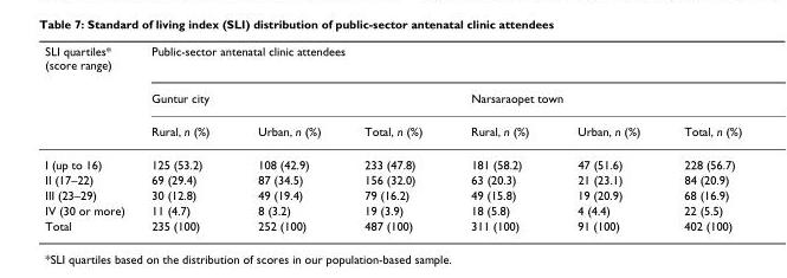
<table><thead><tr><td rowspan="3">SLI quartiles* (score range)</td><td colspan="6">Public-sector antenatal clinic attendees</td></tr><tr><td colspan="3">Guntur city</td><td colspan="3">Narsaraopet town</td></tr><tr><td>Rural, n (%)</td><td>Urban, n (%)</td><td>Total, n (%)</td><td>Rural, n (%)</td><td>Urban, n (%)</td><td>Total, n (%)</td></tr></thead><tbody><tr><td>I (up to 16)</td><td>125 (53.2)</td><td>108 (42.9)</td><td>233 (47.8)</td><td>181 (58.2)</td><td>47 (51.6)</td><td>228 (56.7)</td></tr><tr><td>II (17–22)</td><td>69 (29.4)</td><td>87 (34.5)</td><td>156 (32.0)</td><td>63 (20.3)</td><td>21 (23.1)</td><td>84 (20.9)</td></tr><tr><td>III (23–29)</td><td>30 (12.8)</td><td>49 (19.4)</td><td>79 (16.2)</td><td>49 (15.8)</td><td>19 (20.9)</td><td>68 (16.9)</td></tr><tr><td>IV (30 or more)</td><td>11 (4.7)</td><td>8 (3.2)</td><td>19 (3.9)</td><td>18 (5.8)</td><td>4 (4.4)</td><td>22 (5.5)</td></tr><tr><td>Total</td><td>235 (100)</td><td>252 (100)</td><td>487 (100)</td><td>311 (100)</td><td>91 (100)</td><td>402 (100)</td></tr></tbody></table>